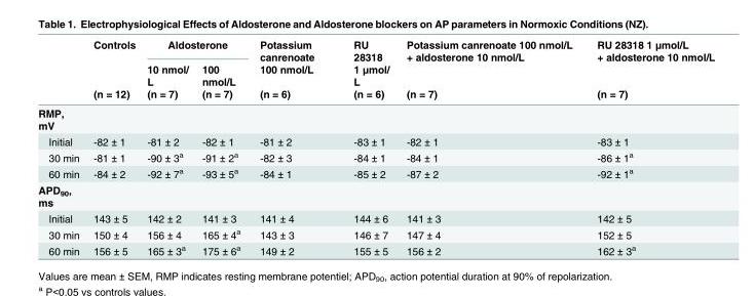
<table><thead><tr><td rowspan="3"></td><td rowspan="3">Controls (n = 12)</td><td colspan="2">Aldosterone</td><td rowspan="3">Potassium canrenoate 100 nmol/L (n = 6)</td><td rowspan="3">RU 28318 1 μmol/ L (n = 6)</td><td rowspan="3">Potassium canrenoate 100 nmol/L + aldosterone 10 nmol/L (n = 7)</td><td rowspan="3">RU 28318 1 μmol/L + aldosterone 10 nmol/L (n = 7)</td></tr><tr><td rowspan="2">10 nmol/ L (n = 7)</td><td rowspan="2">100 nmol/L (n = 7)</td></tr><tr></tr></thead><tbody><tr><td colspan="8">RMP, mV</td></tr><tr><td>Initial</td><td>-82 ± 1</td><td>-81 ± 2</td><td>-82 ± 1</td><td>-81 ± 2</td><td>-83 ± 1</td><td>-82 ± 1</td><td>-83 ± 1</td></tr><tr><td>30 min</td><td>-81 ± 1</td><td>-90 ± 3<sup>a</sup></td><td>-91 ± 2<sup>a</sup></td><td>-82 ± 3</td><td>-84 ± 1</td><td>-84 ± 1</td><td>-86 ± 1<sup>a</sup></td></tr><tr><td>60 min</td><td>-84 ± 2</td><td>-92 ± 7<sup>a</sup></td><td>-93 ± 5<sup>a</sup></td><td>-84 ± 1</td><td>-85 ± 2</td><td>-87 ± 2</td><td>-92 ± 1<sup>a</sup></td></tr><tr><td colspan="8">APD<sub>90</sub>, ms</td></tr><tr><td>Initial</td><td>143 ± 5</td><td>142 ± 2</td><td>141 ± 3</td><td>141 ± 4</td><td>144 ± 6</td><td>141 ± 3</td><td>142 ± 5</td></tr><tr><td>30 min</td><td>150 ± 4</td><td>156 ± 4</td><td>165 ± 4<sup>a</sup></td><td>143 ± 3</td><td>146 ± 7</td><td>147 ± 4</td><td>152 ± 5</td></tr><tr><td>60 min</td><td>156 ± 5</td><td>165 ± 3<sup>a</sup></td><td>175 ± 6<sup>a</sup></td><td>149 ± 2</td><td>155 ± 5</td><td>156 ± 2</td><td>162 ± 3<sup>a</sup></td></tr></tbody></table>